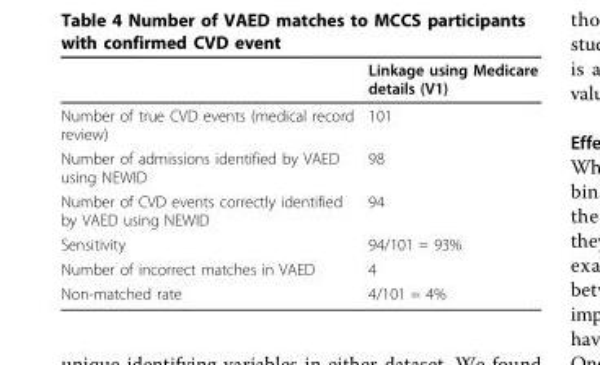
<table><thead><tr><td></td><td>Linkage using Medicare details (V1)</td></tr></thead><tbody><tr><td>Number of true CVD events (medical record review)</td><td>101</td></tr><tr><td>Number of admissions identified by VAED using NEWID</td><td>98</td></tr><tr><td>Number of CVD events correctly identified by VAED using NEWID</td><td>94</td></tr><tr><td>Sensitivity</td><td>94/101 = 93%</td></tr><tr><td>Number of incorrect matches in VAED</td><td>4</td></tr><tr><td>Non-matched rate</td><td>4/101 = 4%</td></tr></tbody></table>